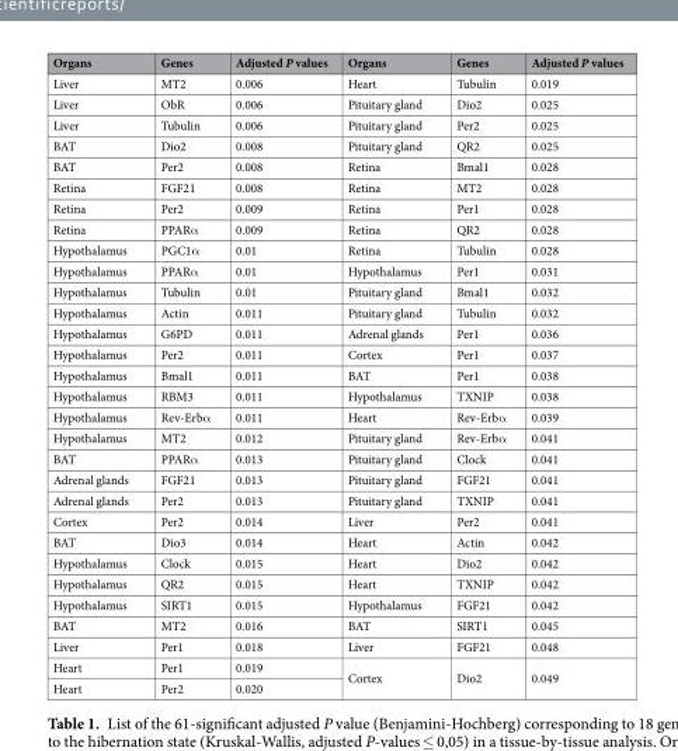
<table><thead><tr><td>Organs</td><td>Genes</td><td>Adjusted P values</td><td>Organs</td><td>Genes</td><td>Adjusted P values</td></tr></thead><tbody><tr><td>Liver</td><td>MT2</td><td>0.006</td><td>Heart</td><td>Tubulin</td><td>0.019</td></tr><tr><td>Liver</td><td>ObR</td><td>0.006</td><td>Pituitary gland</td><td>Dio2</td><td>0.025</td></tr><tr><td>Liver</td><td>Tubulin</td><td>0.006</td><td>Pituitary gland</td><td>Per2</td><td>0.025</td></tr><tr><td>BAT</td><td>Dio2</td><td>0.008</td><td>Pituitary gland</td><td>QR2</td><td>0.025</td></tr><tr><td>BAT</td><td>Per2</td><td>0.008</td><td>Retina</td><td>Bmal1</td><td>0.028</td></tr><tr><td>Retina</td><td>FGF21</td><td>0.008</td><td>Retina</td><td>MT2</td><td>0.028</td></tr><tr><td>Retina</td><td>Per2</td><td>0.009</td><td>Retina</td><td>Per1</td><td>0.028</td></tr><tr><td>Retina</td><td>PPARα</td><td>0.009</td><td>Retina</td><td>QR2</td><td>0.028</td></tr><tr><td>Hypothalamus</td><td>PGC1α</td><td>0.01</td><td>Retina</td><td>Tubulin</td><td>0.028</td></tr><tr><td>Hypothalamus</td><td>PPARα</td><td>0.01</td><td>Hypothalamus</td><td>Per1</td><td>0.031</td></tr><tr><td>Hypothalamus</td><td>Tubulin</td><td>0.01</td><td>Pituitary gland</td><td>Bmal1</td><td>0.032</td></tr><tr><td>Hypothalamus</td><td>Actin</td><td>0.011</td><td>Pituitary gland</td><td>Tubulin</td><td>0.032</td></tr><tr><td>Hypothalamus</td><td>G6PD</td><td>0.011</td><td>Adrenal glands</td><td>Per1</td><td>0.036</td></tr><tr><td>Hypothalamus</td><td>Per2</td><td>0.011</td><td>Cortex</td><td>Per1</td><td>0.037</td></tr><tr><td>Hypothalamus</td><td>Bmal1</td><td>0.011</td><td>BAT</td><td>Per1</td><td>0.038</td></tr><tr><td>Hypothalamus</td><td>RBM3</td><td>0.011</td><td>Hypothalamus</td><td>TXNIP</td><td>0.038</td></tr><tr><td>Hypothalamus</td><td>Rev-Erbα</td><td>0.011</td><td>Heart</td><td>Rev-Erbα</td><td>0.039</td></tr><tr><td>Hypothalamus</td><td>MT2</td><td>0.012</td><td>Pituitary gland</td><td>Rev-Erbα</td><td>0.041</td></tr><tr><td>BAT</td><td>PPARα</td><td>0.013</td><td>Pituitary gland</td><td>Clock</td><td>0.041</td></tr><tr><td>Adrenal glands</td><td>FGF21</td><td>0.013</td><td>Pituitary gland</td><td>FGF21</td><td>0.041</td></tr><tr><td>Adrenal glands</td><td>Per2</td><td>0.013</td><td>Pituitary gland</td><td>TXNIP</td><td>0.041</td></tr><tr><td>Cortex</td><td>Per2</td><td>0.014</td><td>Liver</td><td>Per2</td><td>0.041</td></tr><tr><td>BAT</td><td>Dio3</td><td>0.014</td><td>Heart</td><td>Actin</td><td>0.042</td></tr><tr><td>Hypothalamus</td><td>Clock</td><td>0.015</td><td>Heart</td><td>Dio2</td><td>0.042</td></tr><tr><td>Hypothalamus</td><td>QR2</td><td>0.015</td><td>Heart</td><td>TXNIP</td><td>0.042</td></tr><tr><td>Hypothalamus</td><td>SIRT1</td><td>0.015</td><td>Hypothalamus</td><td>FGF21</td><td>0.042</td></tr><tr><td>BAT</td><td>MT2</td><td>0.016</td><td>BAT</td><td>SIRT1</td><td>0.045</td></tr><tr><td>Liver</td><td>Per1</td><td>0.018</td><td>Liver</td><td>FGF21</td><td>0.048</td></tr><tr><td>Heart</td><td>Per1</td><td>0.019</td><td rowspan="2">Cortex</td><td rowspan="2">Dio2</td><td rowspan="2">0.049</td></tr><tr><td>Heart</td><td>Per2</td><td>0.020</td></tr></tbody></table>